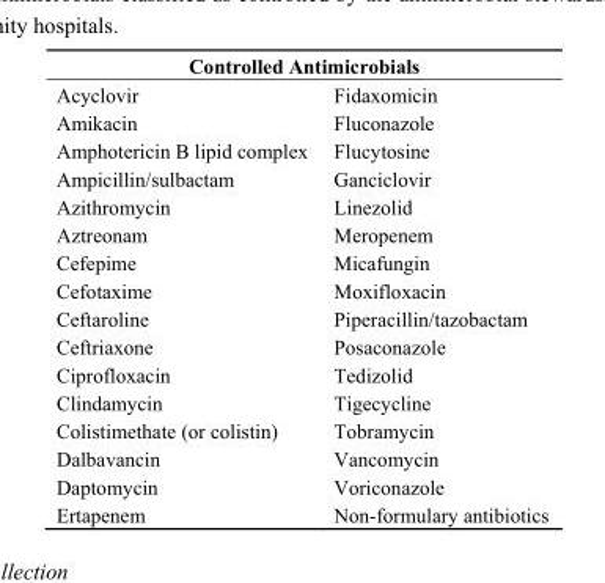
<table><thead><tr><td colspan="2">Controlled Antimicrobials</td></tr><tr><td>Acyclovir</td><td>Fidaxomicin</td></tr></thead><tbody><tr><td>Amikacin</td><td>Fluconazole</td></tr><tr><td>Amphotericin B lipid complex</td><td>Flucytosine</td></tr><tr><td>Ampicillin/sulbactam</td><td>Ganciclovir</td></tr><tr><td>Azithromycin</td><td>Linezolid</td></tr><tr><td>Aztreonam</td><td>Meropenem</td></tr><tr><td>Cefepime</td><td>Micafungin</td></tr><tr><td>Cefotaxime</td><td>Moxifloxacin</td></tr><tr><td>Ceftaroline</td><td>Piperacillin/tazobactam</td></tr><tr><td>Ceftriaxone</td><td>Posaconazole</td></tr><tr><td>Ciprofloxacin</td><td>Tedizolid</td></tr><tr><td>Clindamycin</td><td>Tigecycline</td></tr><tr><td>Colistimethate (or colistin)</td><td>Tobramycin</td></tr><tr><td>Dalbavancin</td><td>Vancomycin</td></tr><tr><td>Daptomycin</td><td>Voriconazole</td></tr><tr><td>Ertapenem</td><td>Non-formulary antibiotics</td></tr></tbody></table>